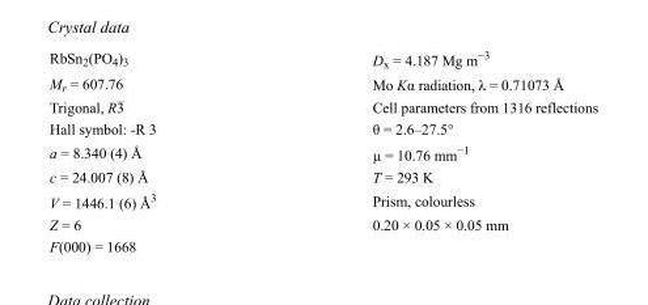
<table><tbody><tr><td>RbSn<sub>2</sub>(PO<sub>4</sub>)<sub>3</sub></td><td>D<sub>x</sub> = 4.187 Mg m<sup>−3</sup></td></tr><tr><td>M<sub>r</sub> = 607.76</td><td>Mo Kα radiation, λ = 0.71073 Å</td></tr><tr><td>Trigonal, R3</td><td>Cell parameters from 1316 reflections</td></tr><tr><td>Hall symbol: -R 3</td><td>θ = 2.6–27.5°</td></tr><tr><td>a = 8.340 (4) Å</td><td>µ = 10.76 mm<sup>−1</sup></td></tr><tr><td>c = 24.007 (8) Å</td><td>T = 293 K</td></tr><tr><td>V = 1446.1 (6) Å<sup>3</sup></td><td>Prism, colourless</td></tr><tr><td>Z = 6</td><td>0.20 × 0.05 × 0.05 mm</td></tr><tr><td>F(000) = 1668</td><td></td></tr></tbody></table>